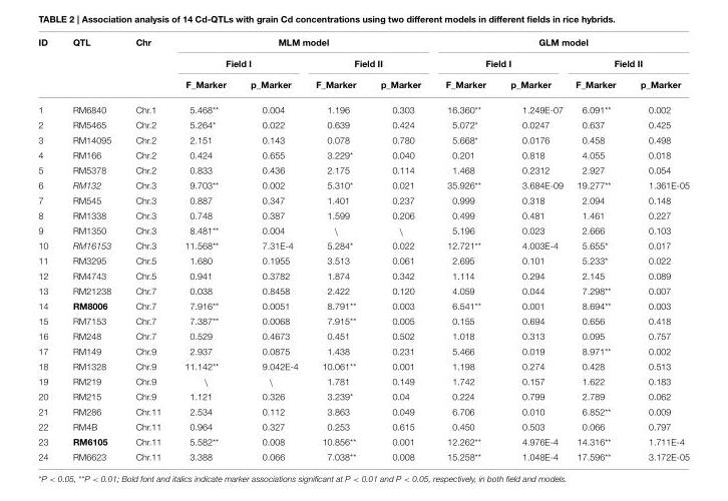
<table><thead><tr><td rowspan="3">ID</td><td rowspan="3">QTL</td><td rowspan="3">Chr</td><td colspan="4">MLM model</td><td colspan="4">GLM model</td></tr><tr><td colspan="2">Field I</td><td colspan="2">Field II</td><td colspan="2">Field I</td><td colspan="2">Field II</td></tr><tr><td>F_Marker</td><td>p_Marker</td><td>F_Marker</td><td>p_Marker</td><td>F_Marker</td><td>p_Marker</td><td>F_Marker</td><td>p_Marker</td></tr></thead><tbody><tr><td>1</td><td>RM6840</td><td>Chr.1</td><td>5.468**</td><td>0.004</td><td>1.196</td><td>0.303</td><td>16.360**</td><td>1.249E-07</td><td>6.091**</td><td>0.002</td></tr><tr><td>2</td><td>RM5465</td><td>Chr.2</td><td>5.264*</td><td>0.022</td><td>0.639</td><td>0.424</td><td>5.072*</td><td>0.0247</td><td>0.637</td><td>0.425</td></tr><tr><td>3</td><td>RM14095</td><td>Chr.2</td><td>2.151</td><td>0.143</td><td>0.078</td><td>0.780</td><td>5.668*</td><td>0.0176</td><td>0.458</td><td>0.498</td></tr><tr><td>4</td><td>RM166</td><td>Chr.2</td><td>0.424</td><td>0.655</td><td>3.229*</td><td>0.040</td><td>0.201</td><td>0.818</td><td>4.055</td><td>0.018</td></tr><tr><td>5</td><td>RM5378</td><td>Chr.2</td><td>0.833</td><td>0.436</td><td>2.175</td><td>0.114</td><td>1.468</td><td>0.2312</td><td>2.927</td><td>0.054</td></tr><tr><td>6</td><td>RM132</td><td>Chr.3</td><td>9.703**</td><td>0.002</td><td>5.310*</td><td>0.021</td><td>35.926**</td><td>3.684E-09</td><td>19.277**</td><td>1.361E-05</td></tr><tr><td>7</td><td>RM545</td><td>Chr.3</td><td>0.887</td><td>0.347</td><td>1.401</td><td>0.237</td><td>0.999</td><td>0.318</td><td>2.094</td><td>0.148</td></tr><tr><td>8</td><td>RM1338</td><td>Chr.3</td><td>0.748</td><td>0.387</td><td>1.599</td><td>0.206</td><td>0.499</td><td>0.481</td><td>1.461</td><td>0.227</td></tr><tr><td>9</td><td>RM1350</td><td>Chr.3</td><td>8.481**</td><td>0.004</td><td>\</td><td>\</td><td>5.196</td><td>0.023</td><td>2.666</td><td>0.103</td></tr><tr><td>10</td><td>RM16153</td><td>Chr.3</td><td>11.568**</td><td>7.31E-4</td><td>5.284*</td><td>0.022</td><td>12.721**</td><td>4.003E-4</td><td>5.655*</td><td>0.017</td></tr><tr><td>11</td><td>RM3295</td><td>Chr.5</td><td>1.680</td><td>0.1955</td><td>3.513</td><td>0.061</td><td>2.695</td><td>0.101</td><td>5.233*</td><td>0.022</td></tr><tr><td>12</td><td>RM4743</td><td>Chr.5</td><td>0.941</td><td>0.3782</td><td>1.874</td><td>0.342</td><td>1.114</td><td>0.294</td><td>2.145</td><td>0.089</td></tr><tr><td>13</td><td>RM21238</td><td>Chr.7</td><td>0.038</td><td>0.8458</td><td>2.422</td><td>0.120</td><td>4.059</td><td>0.044</td><td>7.298**</td><td>0.007</td></tr><tr><td>14</td><td>RM8006</td><td>Chr.7</td><td>7.916**</td><td>0.0051</td><td>8.791**</td><td>0.003</td><td>6.541**</td><td>0.001</td><td>8.694**</td><td>0.003</td></tr><tr><td>15</td><td>RM7153</td><td>Chr.7</td><td>7.387**</td><td>0.0068</td><td>7.915**</td><td>0.005</td><td>0.155</td><td>0.694</td><td>0.656</td><td>0.418</td></tr><tr><td>16</td><td>RM248</td><td>Chr.7</td><td>0.529</td><td>0.4673</td><td>0.451</td><td>0.502</td><td>1.018</td><td>0.313</td><td>0.095</td><td>0.757</td></tr><tr><td>17</td><td>RM149</td><td>Chr.9</td><td>2.937</td><td>0.0875</td><td>1.438</td><td>0.231</td><td>5.466</td><td>0.019</td><td>8.971**</td><td>0.002</td></tr><tr><td>18</td><td>RM1328</td><td>Chr.9</td><td>11.142**</td><td>9.042E-4</td><td>10.061**</td><td>0.001</td><td>1.198</td><td>0.274</td><td>0.428</td><td>0.513</td></tr><tr><td>19</td><td>RM219</td><td>Chr.9</td><td>\</td><td>\</td><td>1.781</td><td>0.149</td><td>1.742</td><td>0.157</td><td>1.622</td><td>0.183</td></tr><tr><td>20</td><td>RM215</td><td>Chr.9</td><td>1.121</td><td>0.326</td><td>3.239*</td><td>0.04</td><td>0.224</td><td>0.799</td><td>2.789</td><td>0.062</td></tr><tr><td>21</td><td>RM286</td><td>Chr.11</td><td>2.534</td><td>0.112</td><td>3.863</td><td>0.049</td><td>6.706</td><td>0.010</td><td>6.852**</td><td>0.009</td></tr><tr><td>22</td><td>RM4B</td><td>Chr.11</td><td>0.964</td><td>0.327</td><td>0.253</td><td>0.615</td><td>0.450</td><td>0.503</td><td>0.066</td><td>0.797</td></tr><tr><td>23</td><td>RM6105</td><td>Chr.11</td><td>5.582**</td><td>0.008</td><td>10.856**</td><td>0.001</td><td>12.262**</td><td>4.976E-4</td><td>14.316**</td><td>1.711E-4</td></tr><tr><td>24</td><td>RM6623</td><td>Chr.11</td><td>3.388</td><td>0.066</td><td>7.038**</td><td>0.008</td><td>15.258**</td><td>1.048E-4</td><td>17.596**</td><td>3.172E-05</td></tr></tbody></table>